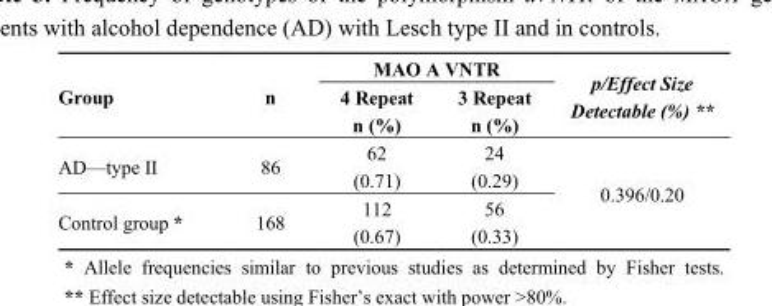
<table><thead><tr><td rowspan="2">Group</td><td rowspan="2">n</td><td colspan="2">MAO A VNTR</td><td rowspan="2">p/Effect Size Detectable (%) **</td></tr><tr><td>4 Repeat n (%)</td><td>3 Repeat n (%)</td></tr></thead><tbody><tr><td>AD—type II</td><td>86</td><td>62 (0.71)</td><td>24 (0.29)</td><td rowspan="2">0.396/0.20</td></tr><tr><td>Control group *</td><td>168</td><td>112 (0.67)</td><td>56 (0.33)</td></tr></tbody></table>